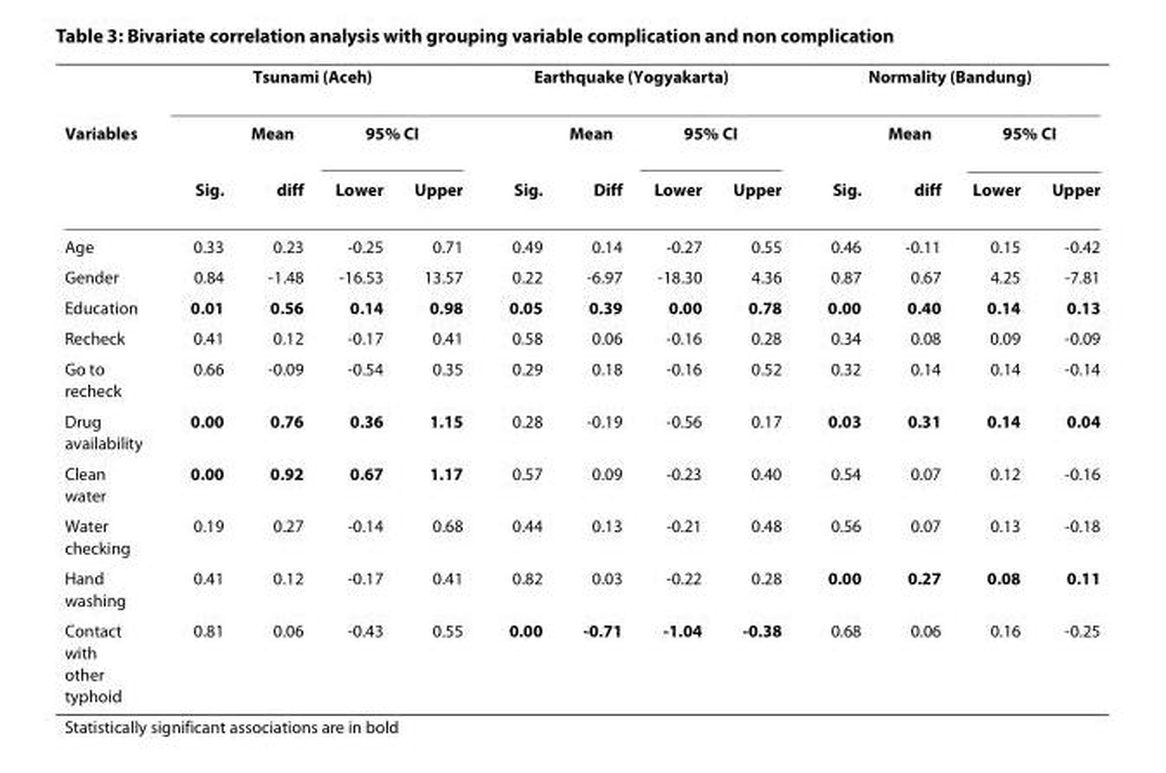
<table><thead><tr><td rowspan="3">Variables</td><td colspan="4">Tsunami (Aceh)</td><td colspan="4">Earthquake (Yogyakarta)</td><td colspan="4">Normality (Bandung)</td></tr><tr><td rowspan="2">Sig.</td><td rowspan="2">Mean diff</td><td colspan="2">95% CI</td><td rowspan="2">Sig.</td><td rowspan="2">Mean Diff</td><td colspan="2">95% CI</td><td rowspan="2">Sig.</td><td rowspan="2">Mean diff</td><td colspan="2">95% CI</td></tr><tr><td>Lower</td><td>Upper</td><td>Lower</td><td>Upper</td><td>Lower</td><td>Upper</td></tr></thead><tbody><tr><td>Age</td><td>0.33</td><td>0.23</td><td>-0.25</td><td>0.71</td><td>0.49</td><td>0.14</td><td>-0.27</td><td>0.55</td><td>0.46</td><td>-0.11</td><td>0.15</td><td>-0.42</td></tr><tr><td>Gender</td><td>0.84</td><td>-1.48</td><td>-16.53</td><td>13.57</td><td>0.22</td><td>-6.97</td><td>-18.30</td><td>4.36</td><td>0.87</td><td>0.67</td><td>4.25</td><td>-7.81</td></tr><tr><td>Education</td><td>0.01</td><td>0.56</td><td>0.14</td><td>0.98</td><td>0.05</td><td>0.39</td><td>0.00</td><td>0.78</td><td>0.00</td><td>0.40</td><td>0.14</td><td>0.13</td></tr><tr><td>Recheck</td><td>0.41</td><td>0.12</td><td>-0.17</td><td>0.41</td><td>0.58</td><td>0.06</td><td>-0.16</td><td>0.28</td><td>0.34</td><td>0.08</td><td>0.09</td><td>-0.09</td></tr><tr><td>Go to recheck</td><td>0.66</td><td>-0.09</td><td>-0.54</td><td>0.35</td><td>0.29</td><td>0.18</td><td>-0.16</td><td>0.52</td><td>0.32</td><td>0.14</td><td>0.14</td><td>-0.14</td></tr><tr><td>Drug availability</td><td>0.00</td><td>0.76</td><td>0.36</td><td>1.15</td><td>0.28</td><td>-0.19</td><td>-0.56</td><td>0.17</td><td>0.03</td><td>0.31</td><td>0.14</td><td>0.04</td></tr><tr><td>Clean water</td><td>0.00</td><td>0.92</td><td>0.67</td><td>1.17</td><td>0.57</td><td>0.09</td><td>-0.23</td><td>0.40</td><td>0.54</td><td>0.07</td><td>0.12</td><td>-0.16</td></tr><tr><td>Water checking</td><td>0.19</td><td>0.27</td><td>-0.14</td><td>0.68</td><td>0.44</td><td>0.13</td><td>-0.21</td><td>0.48</td><td>0.56</td><td>0.07</td><td>0.13</td><td>-0.18</td></tr><tr><td>Hand washing</td><td>0.41</td><td>0.12</td><td>-0.17</td><td>0.41</td><td>0.82</td><td>0.03</td><td>-0.22</td><td>0.28</td><td>0.00</td><td>0.27</td><td>0.08</td><td>0.11</td></tr><tr><td>Contact with other typhoid</td><td>0.81</td><td>0.06</td><td>-0.43</td><td>0.55</td><td>0.00</td><td>-0.71</td><td>-1.04</td><td>-0.38</td><td>0.68</td><td>0.06</td><td>0.16</td><td>-0.25</td></tr></tbody></table>